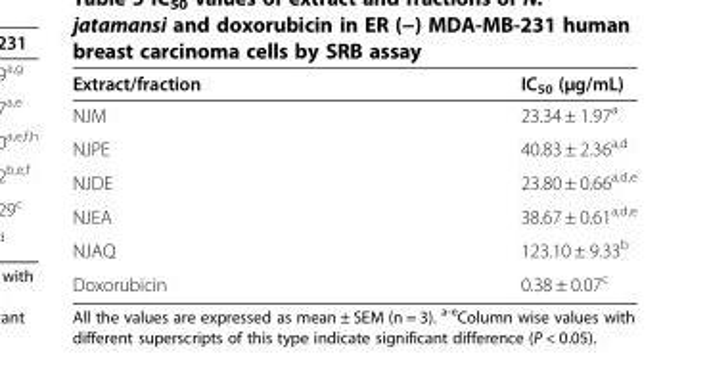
<table><thead><tr><td>Extract/fraction</td><td>IC<sub>50</sub> (μg/mL)</td></tr></thead><tbody><tr><td>NJM</td><td>23.34 ± 1.97<sup>a</sup></td></tr><tr><td>NJPE</td><td>40.83 ± 2.36<sup>a,d</sup></td></tr><tr><td>NJDE</td><td>23.80 ± 0.66<sup>a,d,e</sup></td></tr><tr><td>NJEA</td><td>38.67 ± 0.61<sup>a,d,e</sup></td></tr><tr><td>NJAQ</td><td>123.10 ± 9.33<sup>b</sup></td></tr><tr><td>Doxorubicin</td><td>0.38 ± 0.07<sup>c</sup></td></tr></tbody></table>